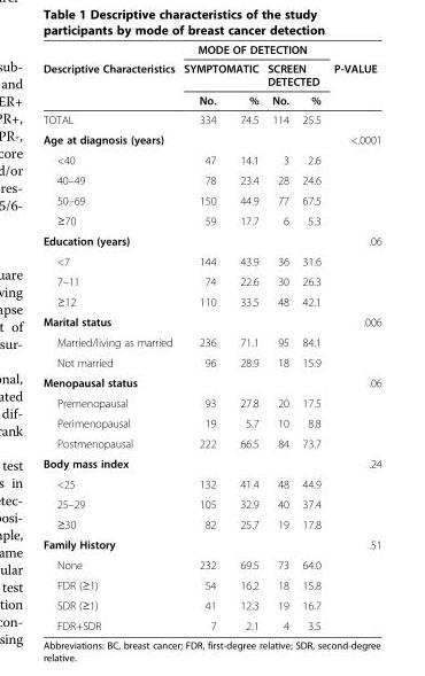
<table><thead><tr><td rowspan="3">Descriptive Characteristics</td><td colspan="4">MODE OF DETECTION</td><td rowspan="3">P-VALUE</td></tr><tr><td colspan="2">SYMPTOMATIC</td><td colspan="2">SCREEN DETECTED</td></tr><tr><td>No.</td><td>%</td><td>No.</td><td>%</td></tr></thead><tbody><tr><td>TOTAL</td><td>334</td><td>74.5</td><td>114</td><td>25.5</td><td></td></tr><tr><td>Age at diagnosis (years)</td><td></td><td></td><td></td><td></td><td>&lt;.0001</td></tr><tr><td>&lt;40</td><td>47</td><td>14.1</td><td>3</td><td>2.6</td><td></td></tr><tr><td>40–49</td><td>78</td><td>23.4</td><td>28</td><td>24.6</td><td></td></tr><tr><td>50–69</td><td>150</td><td>44.9</td><td>77</td><td>67.5</td><td></td></tr><tr><td>≥70</td><td>59</td><td>17.7</td><td>6</td><td>5.3</td><td></td></tr><tr><td>Education (years)</td><td></td><td></td><td></td><td></td><td>.06</td></tr><tr><td>&lt;7</td><td>144</td><td>43.9</td><td>36</td><td>31.6</td><td></td></tr><tr><td>7–11</td><td>74</td><td>22.6</td><td>30</td><td>26.3</td><td></td></tr><tr><td>≥12</td><td>110</td><td>33.5</td><td>48</td><td>42.1</td><td></td></tr><tr><td>Marital status</td><td></td><td></td><td></td><td></td><td>.006</td></tr><tr><td>Married/living as married</td><td>236</td><td>71.1</td><td>95</td><td>84.1</td><td></td></tr><tr><td>Not married</td><td>96</td><td>28.9</td><td>18</td><td>15.9</td><td></td></tr><tr><td>Menopausal status</td><td></td><td></td><td></td><td></td><td>.06</td></tr><tr><td>Premenopausal</td><td>93</td><td>27.8</td><td>20</td><td>17.5</td><td></td></tr><tr><td>Perimenopausal</td><td>19</td><td>5.7</td><td>10</td><td>8.8</td><td></td></tr><tr><td>Postmenopausal</td><td>222</td><td>66.5</td><td>84</td><td>73.7</td><td></td></tr><tr><td>Body mass index</td><td></td><td></td><td></td><td></td><td>.24</td></tr><tr><td>&lt;25</td><td>132</td><td>41.4</td><td>48</td><td>44.9</td><td></td></tr><tr><td>25–29</td><td>105</td><td>32.9</td><td>40</td><td>37.4</td><td></td></tr><tr><td>≥30</td><td>82</td><td>25.7</td><td>19</td><td>17.8</td><td></td></tr><tr><td>Family History</td><td></td><td></td><td></td><td></td><td>.51</td></tr><tr><td>None</td><td>232</td><td>69.5</td><td>73</td><td>64.0</td><td></td></tr><tr><td>FDR (≥1)</td><td>54</td><td>16.2</td><td>18</td><td>15.8</td><td></td></tr><tr><td>SDR (≥1)</td><td>41</td><td>12.3</td><td>19</td><td>16.7</td><td></td></tr><tr><td>FDR+SDR</td><td>7</td><td>2.1</td><td>4</td><td>3.5</td><td></td></tr></tbody></table>